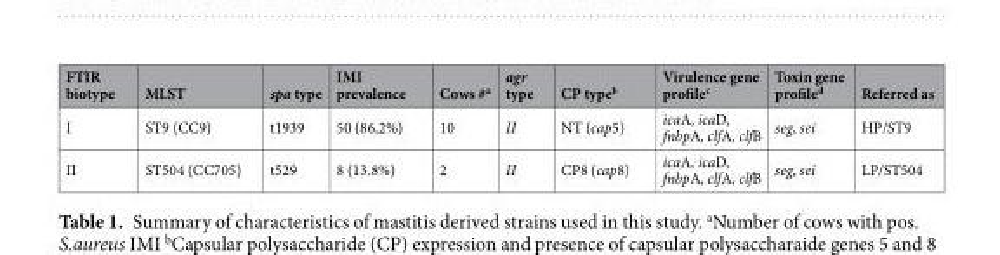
<table><thead><tr><td>FTIR biotype</td><td>MLST</td><td>spa type</td><td>IMI prevalence</td><td>Cows #<sup>a</sup></td><td>agr type</td><td>CP type<sup>b</sup></td><td>Virulence gene profile<sup>c</sup></td><td>Toxin gene profile<sup>d</sup></td><td>Referred as</td></tr></thead><tbody><tr><td>I</td><td>ST9 (CC9)</td><td>t1939</td><td>50 (86,2%)</td><td>10</td><td>II</td><td>NT (cap5)</td><td>icaA, icaD, fnbpA, clfA, clfB</td><td>seg, sei</td><td>HP/ST9</td></tr><tr><td>II</td><td>ST504 (CC705)</td><td>t529</td><td>8 (13.8%)</td><td>2</td><td>II</td><td>CP8 (cap8)</td><td>icaA, icaD, fnbpA, clfA, clfB</td><td>seg, sei</td><td>LP/ST504</td></tr></tbody></table>